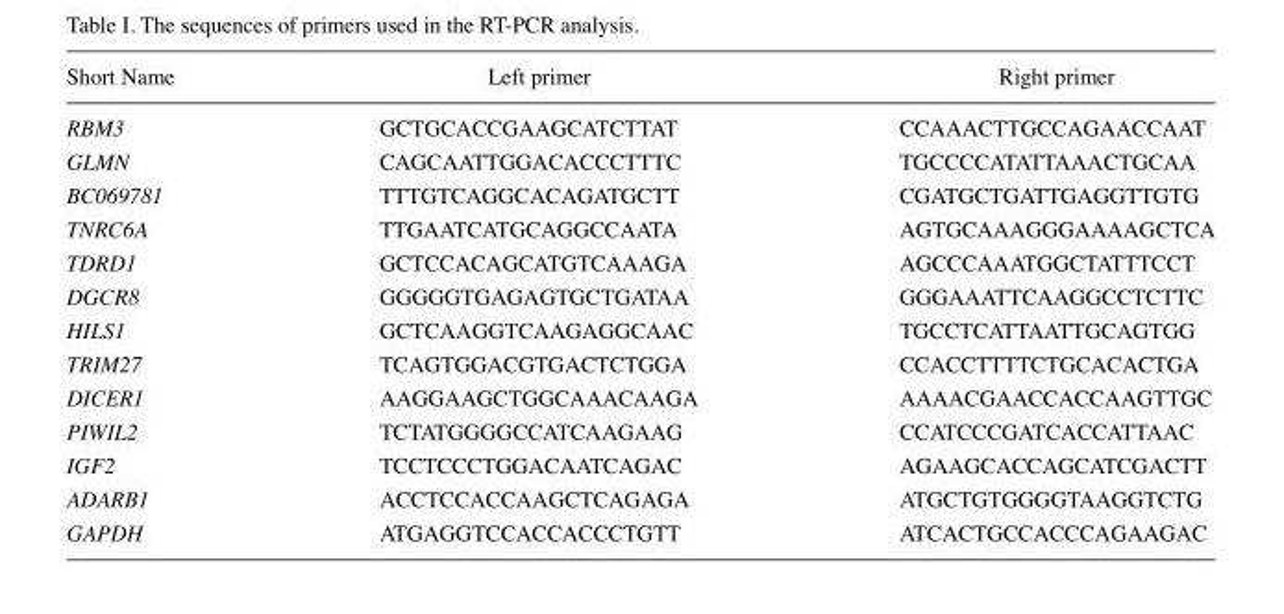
<table><thead><tr><td>Short Name</td><td>Left primer</td><td>Right primer</td></tr></thead><tbody><tr><td>RBM3</td><td>GCTGCACCGAAGCATCTTAT</td><td>CCAAACTTGCCAGAACCAAT</td></tr><tr><td>GLMN</td><td>CAGCAATTGGACACCCTTTC</td><td>TGCCCCATATTAAACTGCAA</td></tr><tr><td>BC069781</td><td>TTTGTCAGGCACAGATGCTT</td><td>CGATGCTGATTGAGGTTGTG</td></tr><tr><td>TNRC6A</td><td>TTGAATCATGCAGGCCAATA</td><td>AGTGCAAAGGGAAAAGCTCA</td></tr><tr><td>TDRD1</td><td>GCTCCACAGCATGTCAAAGA</td><td>AGCCCAAATGGCTATTTCCT</td></tr><tr><td>DGCR8</td><td>GGGGGTGAGAGTGCTGATAA</td><td>GGGAAATTCAAGGCCTCTTC</td></tr><tr><td>HILS1</td><td>GCTCAAGGTCAAGAGGCAAC</td><td>TGCCTCATTAATTGCAGTGG</td></tr><tr><td>TRIM27</td><td>TCAGTGGACGTGACTCTGGA</td><td>CCACCTTTTCTGCACACTGA</td></tr><tr><td>DICER1</td><td>AAGGAAGCTGGCAAACAAGA</td><td>AAAACGAACCACCAAGTTGC</td></tr><tr><td>PIWIL2</td><td>TCTATGGGGCCATCAAGAAG</td><td>CCATCCCGATCACCATTAAC</td></tr><tr><td>IGF2</td><td>TCCTCCCTGGACAATCAGAC</td><td>AGAAGCACCAGCATCGACTT</td></tr><tr><td>ADARB1</td><td>ACCTCCACCAAGCTCAGAGA</td><td>ATGCTGTGGGGTAAGGTCTG</td></tr><tr><td>GAPDH</td><td>ATGAGGTCCACCACCCTGTT</td><td>ATCACTGCCACCCAGAAGAC</td></tr></tbody></table>